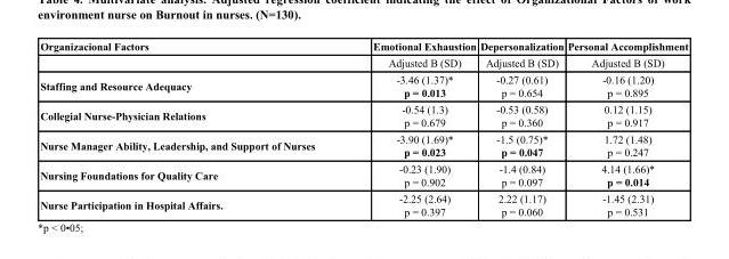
<table><tbody><tr><td rowspan="2">Organizacional Factors</td><td>Emotional Exhaustion</td><td>Depersonalization</td><td>Personal Accomplishment</td></tr><tr><td>Adjusted B (SD)</td><td>Adjusted B (SD)</td><td>Adjusted B (SD)</td></tr><tr><td>Staffing and Resource Adequacy</td><td>-3.46 (1.37)* p = 0.013</td><td>-0.27 (0.61) p = 0.654</td><td>-0.16 (1.20) p = 0.895</td></tr><tr><td>Collegial Nurse-Physician Relations</td><td>-0.54 (1.3) p = 0.679</td><td>-0.53 (0.58) p = 0.360</td><td>0.12 (1.15) p = 0.917</td></tr><tr><td>Nurse Manager Ability, Leadership, and Support of Nurses</td><td>-3.90 (1.69)* p = 0.023</td><td>-1.5 (0.75)* p = 0.047</td><td>1.72 (1.48) p = 0.247</td></tr><tr><td>Nursing Foundations for Quality Care</td><td>-0.23 (1.90) p = 0.902</td><td>-1.4 (0.84) p = 0.097</td><td>4.14 (1.66)* p = 0.014</td></tr><tr><td>Nurse Participation in Hospital Affairs.</td><td>-2.25 (2.64) p = 0.397</td><td>2.22 (1.17) p = 0.060</td><td>-1.45 (2.31) p = 0.531</td></tr></tbody></table>